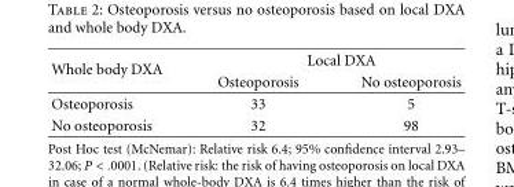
<table><thead><tr><td rowspan="2">Whole body DXA</td><td colspan="2">Local DXA</td></tr><tr><td>Osteoporosis</td><td>No osteoporosis</td></tr></thead><tbody><tr><td>Osteoporosis</td><td>33</td><td>5</td></tr><tr><td>No osteoporosis</td><td>32</td><td>98</td></tr></tbody></table>